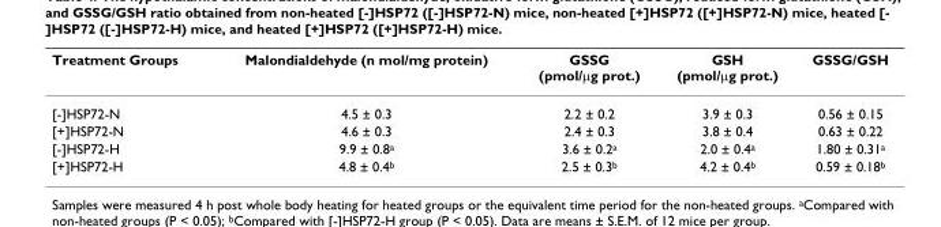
<table><thead><tr><td>Treatment Groups</td><td>Malondialdehyde (n mol/mg protein)</td><td>GSSG (pmol/μg prot.)</td><td>GSH (pmol/μg prot.)</td><td>GSSG/GSH</td></tr></thead><tbody><tr><td>[-]HSP72-N</td><td>4.5 ± 0.3</td><td>2.2 ± 0.2</td><td>3.9 ± 0.3</td><td>0.56 ± 0.15</td></tr><tr><td>[+]HSP72-N</td><td>4.6 ± 0.3</td><td>2.4 ± 0.3</td><td>3.8 ± 0.4</td><td>0.63 ± 0.22</td></tr><tr><td>[-]HSP72-H</td><td>9.9 ± 0.8<sup>a</sup></td><td>3.6 ± 0.2<sup>a</sup></td><td>2.0 ± 0.4<sup>a</sup></td><td>1.80 ± 0.31<sup>a</sup></td></tr><tr><td>[+]HSP72-H</td><td>4.8 ± 0.4<sup>b</sup></td><td>2.5 ± 0.3<sup>b</sup></td><td>4.2 ± 0.4<sup>b</sup></td><td>0.59 ± 0.18<sup>b</sup></td></tr></tbody></table>